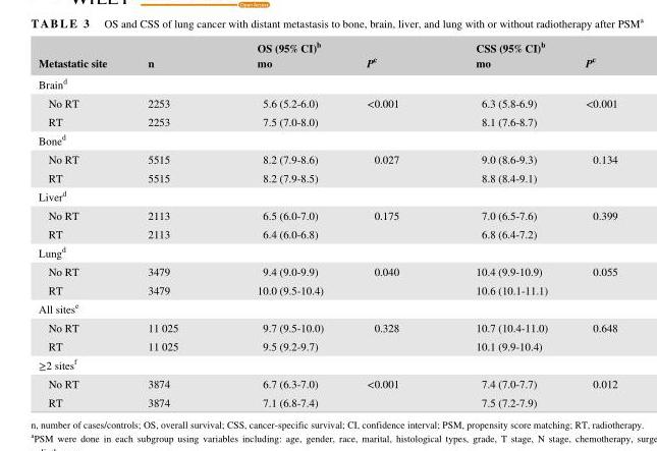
<table><thead><tr><td>Metastatic site</td><td>n</td><td>OS (95% CI)<sup>b</sup> mo</td><td>Pc</td><td>CSS (95% CI)<sup>b</sup> mo</td><td>Pc</td></tr></thead><tbody><tr><td colspan="6">Brain<sup>d</sup></td></tr><tr><td>No RT</td><td>2253</td><td>5.6 (5.2- 6.0)</td><td rowspan="2">&lt;0.001</td><td>6.3 (5.8- 6.9)</td><td rowspan="2">&lt;0.001</td></tr><tr><td>RT</td><td>2253</td><td>7.5 (7.0- 8.0)</td><td>8.1 (7.6- 8.7)</td></tr><tr><td colspan="6">Bone<sup>d</sup></td></tr><tr><td>No RT</td><td>5515</td><td>8.2 (7.9- 8.6)</td><td rowspan="2">0.027</td><td>9.0 (8.6- 9.3)</td><td rowspan="2">0.134</td></tr><tr><td>RT</td><td>5515</td><td>8.2 (7.9- 8.5)</td><td>8.8 (8.4- 9.1)</td></tr><tr><td colspan="6">Liver<sup>d</sup></td></tr><tr><td>No RT</td><td>2113</td><td>6.5 (6.0- 7.0)</td><td rowspan="2">0.175</td><td>7.0 (6.5- 7.6)</td><td rowspan="2">0.399</td></tr><tr><td>RT</td><td>2113</td><td>6.4 (6.0- 6.8)</td><td>6.8 (6.4- 7.2)</td></tr><tr><td colspan="6">Lung<sup>d</sup></td></tr><tr><td>No RT</td><td>3479</td><td>9.4 (9.0- 9.9)</td><td rowspan="2">0.040</td><td>10.4 (9.9- 10.9)</td><td rowspan="2">0.055</td></tr><tr><td>RT</td><td>3479</td><td>10.0 (9.5- 10.4)</td><td>10.6 (10.1- 11.1)</td></tr><tr><td colspan="6">All sites<sup>e</sup></td></tr><tr><td>No RT</td><td>11 025</td><td>9.7 (9.5- 10.0)</td><td rowspan="2">0.328</td><td>10.7 (10.4- 11.0)</td><td rowspan="2">0.648</td></tr><tr><td>RT</td><td>11 025</td><td>9.5 (9.2- 9.7)</td><td>10.1 (9.9- 10.4)</td></tr><tr><td colspan="6">≥2 sites<sup>f</sup></td></tr><tr><td>No RT</td><td>3874</td><td>6.7 (6.3- 7.0)</td><td rowspan="2">&lt;0.001</td><td>7.4 (7.0- 7.7)</td><td rowspan="2">0.012</td></tr><tr><td>RT</td><td>3874</td><td>7.1 (6.8- 7.4)</td><td>7.5 (7.2- 7.9)</td></tr></tbody></table>